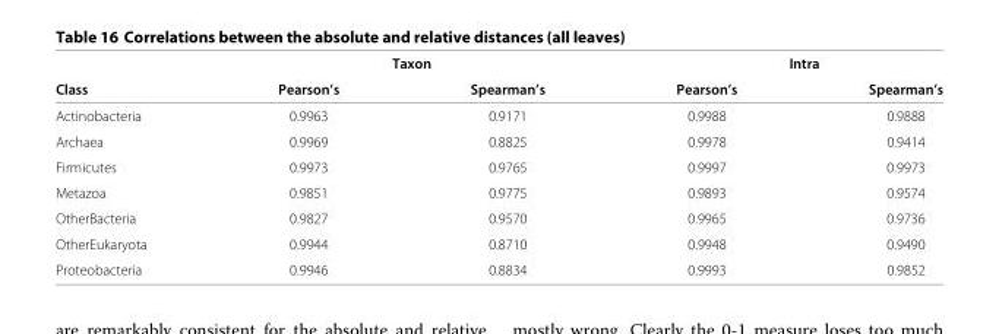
<table><thead><tr><td rowspan="2">Class</td><td colspan="2">Taxon</td><td colspan="2">Intra</td></tr><tr><td>Pearson’s</td><td>Spearman’s</td><td>Pearson’s</td><td>Spearman’s</td></tr></thead><tbody><tr><td>Actinobacteria</td><td>0.9963</td><td>0.9171</td><td>0.9988</td><td>0.9888</td></tr><tr><td>Archaea</td><td>0.9969</td><td>0.8825</td><td>0.9978</td><td>0.9414</td></tr><tr><td>Firmicutes</td><td>0.9973</td><td>0.9765</td><td>0.9997</td><td>0.9973</td></tr><tr><td>Metazoa</td><td>0.9851</td><td>0.9775</td><td>0.9893</td><td>0.9574</td></tr><tr><td>OtherBacteria</td><td>0.9827</td><td>0.9570</td><td>0.9965</td><td>0.9736</td></tr><tr><td>OtherEukaryota</td><td>0.9944</td><td>0.8710</td><td>0.9948</td><td>0.9490</td></tr><tr><td>Proteobacteria</td><td>0.9946</td><td>0.8834</td><td>0.9993</td><td>0.9852</td></tr></tbody></table>